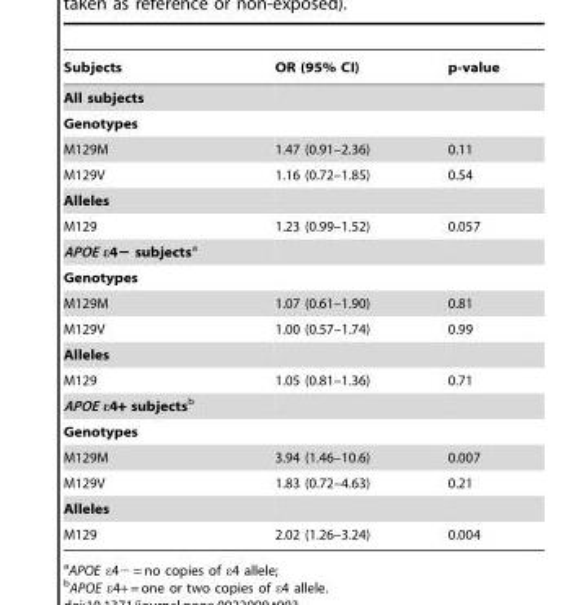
<table><thead><tr><td>Subjects</td><td>OR (95% CI)</td><td>p-value</td></tr></thead><tbody><tr><td colspan="3">All subjects</td></tr><tr><td colspan="3">Genotypes</td></tr><tr><td>M129M</td><td>1.47 (0.91–2.36)</td><td>0.11</td></tr><tr><td>M129V</td><td>1.16 (0.72–1.85)</td><td>0.54</td></tr><tr><td colspan="3">Alleles</td></tr><tr><td>M129</td><td>1.23 (0.99–1.52)</td><td>0.057</td></tr><tr><td colspan="3">APOE ε4− subjectsa</td></tr><tr><td colspan="3">Genotypes</td></tr><tr><td>M129M</td><td>1.07 (0.61–1.90)</td><td>0.81</td></tr><tr><td>M129V</td><td>1.00 (0.57–1.74)</td><td>0.99</td></tr><tr><td colspan="3">Alleles</td></tr><tr><td>M129</td><td>1.05 (0.81–1.36)</td><td>0.71</td></tr><tr><td colspan="3">APOE ε4+ subjectsb</td></tr><tr><td colspan="3">Genotypes</td></tr><tr><td>M129M</td><td>3.94 (1.46–10.6)</td><td>0.007</td></tr><tr><td>M129V</td><td>1.83 (0.72–4.63)</td><td>0.21</td></tr><tr><td colspan="3">Alleles</td></tr><tr><td>M129</td><td>2.02 (1.26–3.24)</td><td>0.004</td></tr></tbody></table>